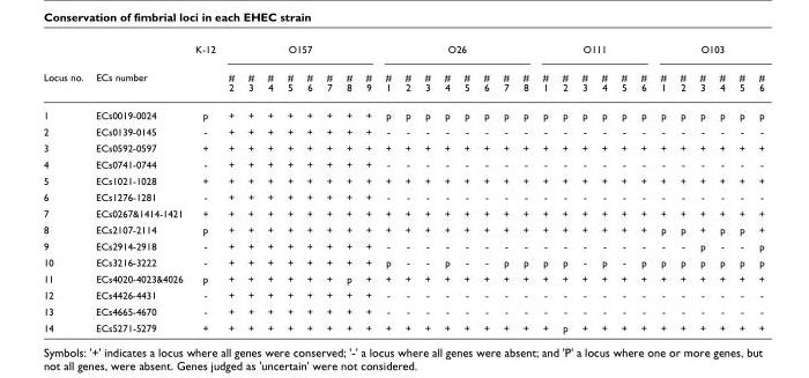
<table><thead><tr><td rowspan="2">Locus no.</td><td rowspan="2">ECs number</td><td rowspan="2">K-12</td><td colspan="8">O157</td><td colspan="8">O26</td><td colspan="6">O111</td><td colspan="6">O103</td></tr><tr><td># 2</td><td># 3</td><td># 4</td><td># 5</td><td># 6</td><td># 7</td><td># 8</td><td># 9</td><td># 1</td><td># 2</td><td># 3</td><td># 4</td><td># 5</td><td># 6</td><td># 7</td><td># 8</td><td># 1</td><td># 2</td><td># 3</td><td># 4</td><td># 5</td><td># 6</td><td># 1</td><td># 2</td><td># 3</td><td># 4</td><td># 5</td><td># 6</td></tr></thead><tbody><tr><td>1</td><td>ECs0019-0024</td><td>p</td><td>+</td><td>+</td><td>+</td><td>+</td><td>+</td><td>+</td><td>+</td><td>+</td><td>p</td><td>p</td><td>p</td><td>p</td><td>p</td><td>p</td><td>p</td><td>p</td><td>p</td><td>p</td><td>p</td><td>p</td><td>p</td><td>p</td><td>p</td><td>p</td><td>p</td><td>p</td><td>p</td><td>p</td></tr><tr><td>2</td><td>ECs0139-0145</td><td>-</td><td>+</td><td>+</td><td>+</td><td>+</td><td>+</td><td>+</td><td>+</td><td>+</td><td>-</td><td>-</td><td>-</td><td>-</td><td>-</td><td>-</td><td>-</td><td>-</td><td>-</td><td>-</td><td>-</td><td>-</td><td>-</td><td>-</td><td>-</td><td>-</td><td>-</td><td>-</td><td>-</td><td>-</td></tr><tr><td>3</td><td>ECs0592-0597</td><td>+</td><td>+</td><td>+</td><td>+</td><td>+</td><td>+</td><td>+</td><td>+</td><td>+</td><td>+</td><td>+</td><td>+</td><td>+</td><td>+</td><td>+</td><td>+</td><td>+</td><td>+</td><td>+</td><td>+</td><td>+</td><td>+</td><td>+</td><td>+</td><td>+</td><td>+</td><td>+</td><td>+</td><td>+</td></tr><tr><td>4</td><td>ECs0741-0744</td><td>-</td><td>+</td><td>+</td><td>+</td><td>+</td><td>+</td><td>+</td><td>+</td><td>+</td><td>-</td><td>-</td><td>-</td><td>-</td><td>-</td><td>-</td><td>-</td><td>-</td><td>-</td><td>-</td><td>-</td><td>-</td><td>-</td><td>-</td><td>-</td><td>-</td><td>-</td><td>-</td><td>-</td><td>-</td></tr><tr><td>5</td><td>ECs1021-1028</td><td>+</td><td>+</td><td>+</td><td>+</td><td>+</td><td>+</td><td>+</td><td>+</td><td>+</td><td>+</td><td>+</td><td>+</td><td>+</td><td>+</td><td>+</td><td>+</td><td>+</td><td>+</td><td>+</td><td>+</td><td>+</td><td>+</td><td>+</td><td>+</td><td>+</td><td>+</td><td>+</td><td>+</td><td>+</td></tr><tr><td>6</td><td>ECs1276-1281</td><td>-</td><td>+</td><td>+</td><td>+</td><td>+</td><td>+</td><td>+</td><td>+</td><td>+</td><td>-</td><td>-</td><td>-</td><td>-</td><td>-</td><td>-</td><td>-</td><td>-</td><td>-</td><td>-</td><td>-</td><td>-</td><td>-</td><td>-</td><td>-</td><td>-</td><td>-</td><td>-</td><td>-</td><td>-</td></tr><tr><td>7</td><td>ECs0267&amp;1414-1421</td><td>+</td><td>+</td><td>+</td><td>+</td><td>+</td><td>+</td><td>+</td><td>+</td><td>+</td><td>+</td><td>+</td><td>+</td><td>+</td><td>+</td><td>+</td><td>+</td><td>+</td><td>+</td><td>+</td><td>+</td><td>+</td><td>+</td><td>+</td><td>+</td><td>+</td><td>+</td><td>+</td><td>+</td><td>+</td></tr><tr><td>8</td><td>ECs2107-2114</td><td>p</td><td>+</td><td>+</td><td>+</td><td>+</td><td>+</td><td>+</td><td>+</td><td>+</td><td>+</td><td>+</td><td>+</td><td>+</td><td>+</td><td>+</td><td>+</td><td>+</td><td>+</td><td>+</td><td>+</td><td>+</td><td>+</td><td>+</td><td>p</td><td>p</td><td>+</td><td>p</td><td>p</td><td>+</td></tr><tr><td>9</td><td>ECs2914-2918</td><td>-</td><td>+</td><td>+</td><td>+</td><td>+</td><td>+</td><td>+</td><td>+</td><td>+</td><td>-</td><td>-</td><td>-</td><td>-</td><td>-</td><td>-</td><td>-</td><td>-</td><td>-</td><td>-</td><td>-</td><td>-</td><td>-</td><td>-</td><td>-</td><td>-</td><td>p</td><td>-</td><td>-</td><td>p</td></tr><tr><td>10</td><td>ECs3216-3222</td><td>-</td><td>+</td><td>+</td><td>+</td><td>+</td><td>+</td><td>+</td><td>+</td><td>+</td><td>p</td><td>-</td><td>-</td><td>p</td><td>-</td><td>-</td><td>p</td><td>p</td><td>p</td><td>p</td><td>-</td><td>p</td><td>-</td><td>p</td><td>p</td><td>p</td><td>p</td><td>p</td><td>p</td><td>p</td></tr><tr><td>11</td><td>ECs4020-4023&amp;4026</td><td>p</td><td>+</td><td>+</td><td>+</td><td>+</td><td>+</td><td>+</td><td>p</td><td>+</td><td>+</td><td>+</td><td>+</td><td>+</td><td>+</td><td>+</td><td>+</td><td>+</td><td>+</td><td>+</td><td>+</td><td>+</td><td>+</td><td>+</td><td>+</td><td>+</td><td>+</td><td>+</td><td>+</td><td>+</td></tr><tr><td>12</td><td>ECs4426-4431</td><td>-</td><td>+</td><td>+</td><td>+</td><td>+</td><td>+</td><td>+</td><td>+</td><td>+</td><td>-</td><td>-</td><td>-</td><td>-</td><td>-</td><td>-</td><td>-</td><td>-</td><td>-</td><td>-</td><td>-</td><td>-</td><td>-</td><td>-</td><td>-</td><td>-</td><td>-</td><td>-</td><td>-</td><td>-</td></tr><tr><td>13</td><td>ECs4665-4670</td><td>-</td><td>+</td><td>+</td><td>+</td><td>+</td><td>+</td><td>+</td><td>+</td><td>+</td><td>-</td><td>-</td><td>-</td><td>-</td><td>-</td><td>-</td><td>-</td><td>-</td><td>-</td><td>-</td><td>-</td><td>-</td><td>-</td><td>-</td><td>-</td><td>-</td><td>-</td><td>-</td><td>-</td><td>-</td></tr><tr><td>14</td><td>ECs5271-5279</td><td>+</td><td>+</td><td>+</td><td>+</td><td>+</td><td>+</td><td>+</td><td>+</td><td>+</td><td>+</td><td>+</td><td>+</td><td>+</td><td>+</td><td>+</td><td>+</td><td>+</td><td>+</td><td>p</td><td>+</td><td>+</td><td>+</td><td>+</td><td>+</td><td>+</td><td>+</td><td>+</td><td>+</td><td>+</td></tr></tbody></table>